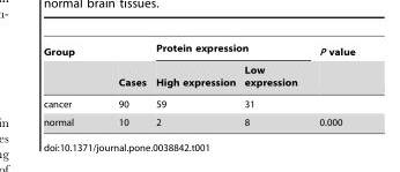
<table><thead><tr><td rowspan="2">Group</td><td rowspan="2">Cases</td><td colspan="2">Protein expression</td><td rowspan="2">P value</td></tr><tr><td>High expression</td><td>Low expression</td></tr></thead><tbody><tr><td>cancer</td><td>90</td><td>59</td><td>31</td><td></td></tr><tr><td>normal</td><td>10</td><td>2</td><td>8</td><td>0.000</td></tr></tbody></table>